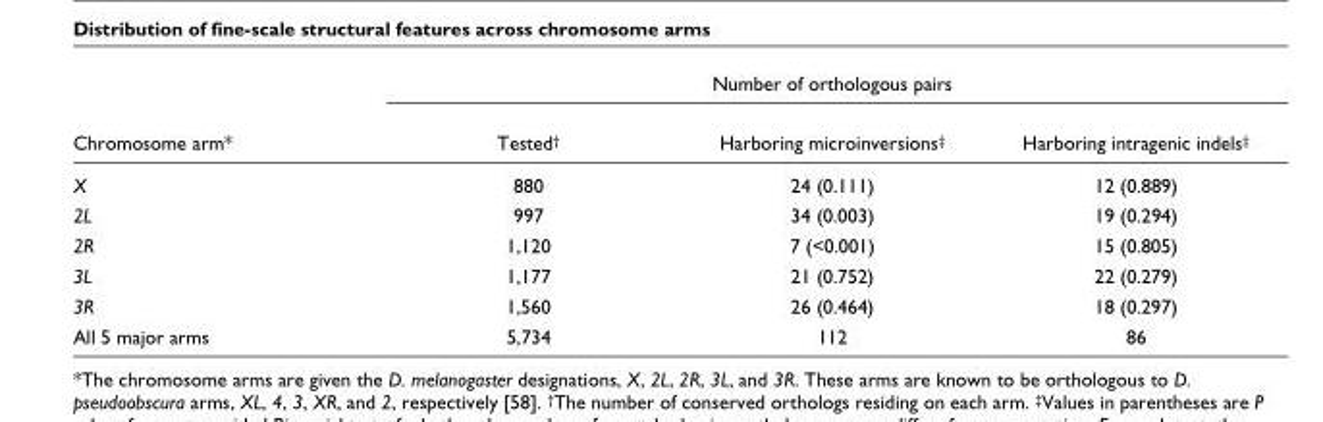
<table><thead><tr><td rowspan="2">Chromosome arm*</td><td colspan="3">Number of orthologous pairs</td></tr><tr><td>Tested†</td><td>Harboring microinversions‡</td><td>Harboring intragenic indels‡</td></tr></thead><tbody><tr><td>X</td><td>880</td><td>24 (0.111)</td><td>12 (0.889)</td></tr><tr><td>2L</td><td>997</td><td>34 (0.003)</td><td>19 (0.294)</td></tr><tr><td>2R</td><td>1,120</td><td>7 (&lt;0.001)</td><td>15 (0.805)</td></tr><tr><td>3L</td><td>1,177</td><td>21 (0.752)</td><td>22 (0.279)</td></tr><tr><td>3R</td><td>1,560</td><td>26 (0.464)</td><td>18 (0.297)</td></tr><tr><td>All 5 major arms</td><td>5,734</td><td>112</td><td>86</td></tr></tbody></table>